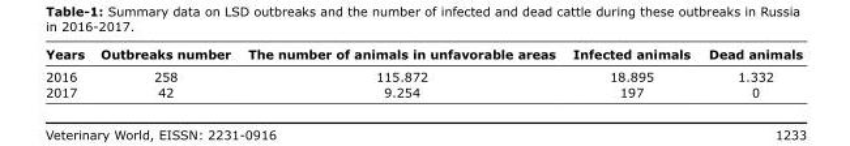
<table><thead><tr><td>Years</td><td>Outbreaks number</td><td>The number of animals in unfavorable areas</td><td>Infected animals</td><td>Dead animals</td></tr></thead><tbody><tr><td>2016</td><td>258</td><td>115.872</td><td>18.895</td><td>1.332</td></tr><tr><td>2017</td><td>42</td><td>9.254</td><td>197</td><td>0</td></tr></tbody></table>